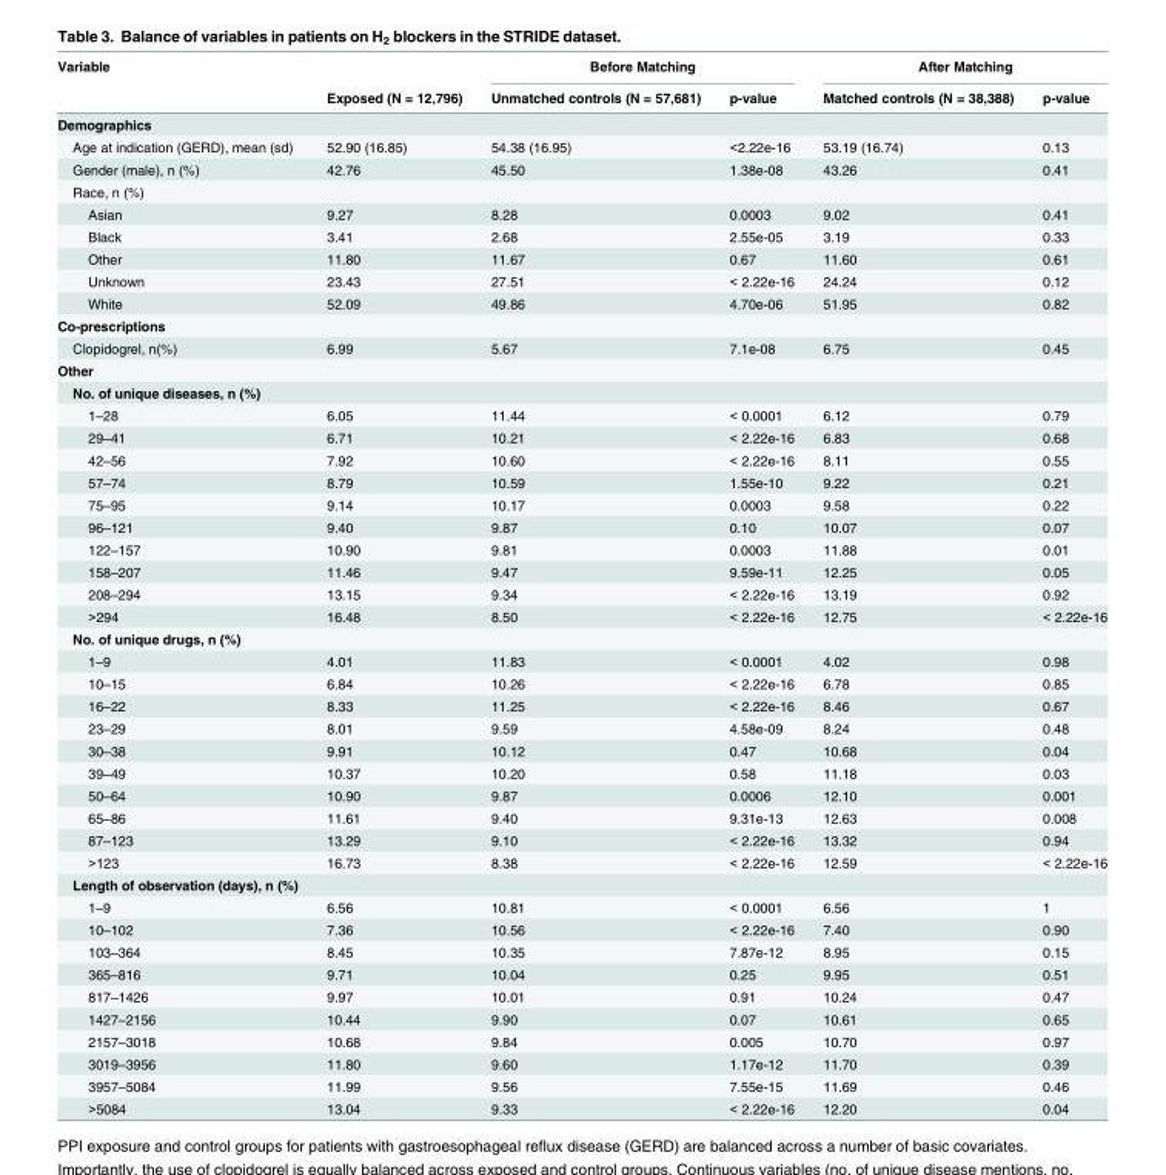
<table><thead><tr><td rowspan="2">Variable</td><td rowspan="2">Exposed (N = 12,796)</td><td colspan="2">Before Matching</td><td colspan="2">After Matching</td></tr><tr><td>Unmatched controls (N = 57,681)</td><td>p-value</td><td>Matched controls (N = 38,388)</td><td>p-value</td></tr></thead><tbody><tr><td colspan="6">Demographics</td></tr><tr><td>Age at indication (GERD), mean (sd)</td><td>52.90 (16.85)</td><td>54.38 (16.95)</td><td>&lt;2.22e-16</td><td>53.19 (16.74)</td><td>0.13</td></tr><tr><td>Gender (male), n (%)</td><td>42.76</td><td>45.50</td><td>1.38e-08</td><td>43.26</td><td>0.41</td></tr><tr><td colspan="6">Race, n (%)</td></tr><tr><td>Asian</td><td>9.27</td><td>8.28</td><td>0.0003</td><td>9.02</td><td>0.41</td></tr><tr><td>Black</td><td>3.41</td><td>2.68</td><td>2.55e-05</td><td>3.19</td><td>0.33</td></tr><tr><td>Other</td><td>11.80</td><td>11.67</td><td>0.67</td><td>11.60</td><td>0.61</td></tr><tr><td>Unknown</td><td>23.43</td><td>27.51</td><td>&lt; 2.22e-16</td><td>24.24</td><td>0.12</td></tr><tr><td>White</td><td>52.09</td><td>49.86</td><td>4.70e-06</td><td>51.95</td><td>0.82</td></tr><tr><td colspan="6">Co-prescriptions</td></tr><tr><td>Clopidogrel, n(%)</td><td>6.99</td><td>5.67</td><td>7.1e-08</td><td>6.75</td><td>0.45</td></tr><tr><td colspan="6">Other</td></tr><tr><td colspan="6">No. of unique diseases, n (%)</td></tr><tr><td>1–28</td><td>6.05</td><td>11.44</td><td>&lt; 0.0001</td><td>6.12</td><td>0.79</td></tr><tr><td>29–41</td><td>6.71</td><td>10.21</td><td>&lt; 2.22e-16</td><td>6.83</td><td>0.68</td></tr><tr><td>42–56</td><td>7.92</td><td>10.60</td><td>&lt; 2.22e-16</td><td>8.11</td><td>0.55</td></tr><tr><td>57–74</td><td>8.79</td><td>10.59</td><td>1.55e-10</td><td>9.22</td><td>0.21</td></tr><tr><td>75–95</td><td>9.14</td><td>10.17</td><td>0.0003</td><td>9.58</td><td>0.22</td></tr><tr><td>96–121</td><td>9.40</td><td>9.87</td><td>0.10</td><td>10.07</td><td>0.07</td></tr><tr><td>122–157</td><td>10.90</td><td>9.81</td><td>0.0003</td><td>11.88</td><td>0.01</td></tr><tr><td>158–207</td><td>11.46</td><td>9.47</td><td>9.59e-11</td><td>12.25</td><td>0.05</td></tr><tr><td>208–294</td><td>13.15</td><td>9.34</td><td>&lt; 2.22e-16</td><td>13.19</td><td>0.92</td></tr><tr><td>&gt;294</td><td>16.48</td><td>8.50</td><td>&lt; 2.22e-16</td><td>12.75</td><td>&lt; 2.22e-16</td></tr><tr><td colspan="6">No. of unique drugs, n (%)</td></tr><tr><td>1–9</td><td>4.01</td><td>11.83</td><td>&lt; 0.0001</td><td>4.02</td><td>0.98</td></tr><tr><td>10–15</td><td>6.84</td><td>10.26</td><td>&lt; 2.22e-16</td><td>6.78</td><td>0.85</td></tr><tr><td>16–22</td><td>8.33</td><td>11.25</td><td>&lt; 2.22e-16</td><td>8.46</td><td>0.67</td></tr><tr><td>23–29</td><td>8.01</td><td>9.59</td><td>4.58e-09</td><td>8.24</td><td>0.48</td></tr><tr><td>30–38</td><td>9.91</td><td>10.12</td><td>0.47</td><td>10.68</td><td>0.04</td></tr><tr><td>39–49</td><td>10.37</td><td>10.20</td><td>0.58</td><td>11.18</td><td>0.03</td></tr><tr><td>50–64</td><td>10.90</td><td>9.87</td><td>0.0006</td><td>12.10</td><td>0.001</td></tr><tr><td>65–86</td><td>11.61</td><td>9.40</td><td>9.31e-13</td><td>12.63</td><td>0.008</td></tr><tr><td>87–123</td><td>13.29</td><td>9.10</td><td>&lt; 2.22e-16</td><td>13.32</td><td>0.94</td></tr><tr><td>&gt;123</td><td>16.73</td><td>8.38</td><td>&lt; 2.22e-16</td><td>12.59</td><td>&lt; 2.22e-16</td></tr><tr><td colspan="6">Length of observation (days), n (%)</td></tr><tr><td>1–9</td><td>6.56</td><td>10.81</td><td>&lt; 0.0001</td><td>6.56</td><td>1</td></tr><tr><td>10–102</td><td>7.36</td><td>10.56</td><td>&lt; 2.22e-16</td><td>7.40</td><td>0.90</td></tr><tr><td>103–364</td><td>8.45</td><td>10.35</td><td>7.87e-12</td><td>8.95</td><td>0.15</td></tr><tr><td>365–816</td><td>9.71</td><td>10.04</td><td>0.25</td><td>9.95</td><td>0.51</td></tr><tr><td>817–1426</td><td>9.97</td><td>10.01</td><td>0.91</td><td>10.24</td><td>0.47</td></tr><tr><td>1427–2156</td><td>10.44</td><td>9.90</td><td>0.07</td><td>10.61</td><td>0.65</td></tr><tr><td>2157–3018</td><td>10.68</td><td>9.84</td><td>0.005</td><td>10.70</td><td>0.97</td></tr><tr><td>3019–3956</td><td>11.80</td><td>9.60</td><td>1.17e-12</td><td>11.70</td><td>0.39</td></tr><tr><td>3957–5084</td><td>11.99</td><td>9.56</td><td>7.55e-15</td><td>11.69</td><td>0.46</td></tr><tr><td>&gt;5084</td><td>13.04</td><td>9.33</td><td>&lt; 2.22e-16</td><td>12.20</td><td>0.04</td></tr></tbody></table>